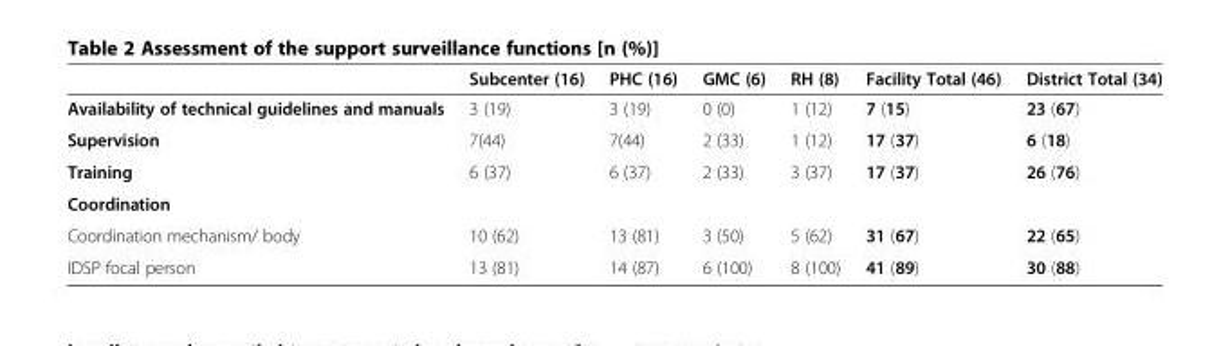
<table><thead><tr><td></td><td>Subcenter (16)</td><td>PHC (16)</td><td>GMC (6)</td><td>RH (8)</td><td>Facility Total (46)</td><td>District Total (34)</td></tr></thead><tbody><tr><td>Availability of technical guidelines and manuals</td><td>3 (19)</td><td>3 (19)</td><td>0 (0)</td><td>1 (12)</td><td>7 (15)</td><td>23 (67)</td></tr><tr><td>Supervision</td><td>7(44)</td><td>7(44)</td><td>2 (33)</td><td>1 (12)</td><td>17 (37)</td><td>6 (18)</td></tr><tr><td>Training</td><td>6 (37)</td><td>6 (37)</td><td>2 (33)</td><td>3 (37)</td><td>17 (37)</td><td>26 (76)</td></tr><tr><td colspan="7">Coordination</td></tr><tr><td>Coordination mechanism/ body</td><td>10 (62)</td><td>13 (81)</td><td>3 (50)</td><td>5 (62)</td><td>31 (67)</td><td>22 (65)</td></tr><tr><td>IDSP focal person</td><td>13 (81)</td><td>14 (87)</td><td>6 (100)</td><td>8 (100)</td><td>41 (89)</td><td>30 (88)</td></tr></tbody></table>